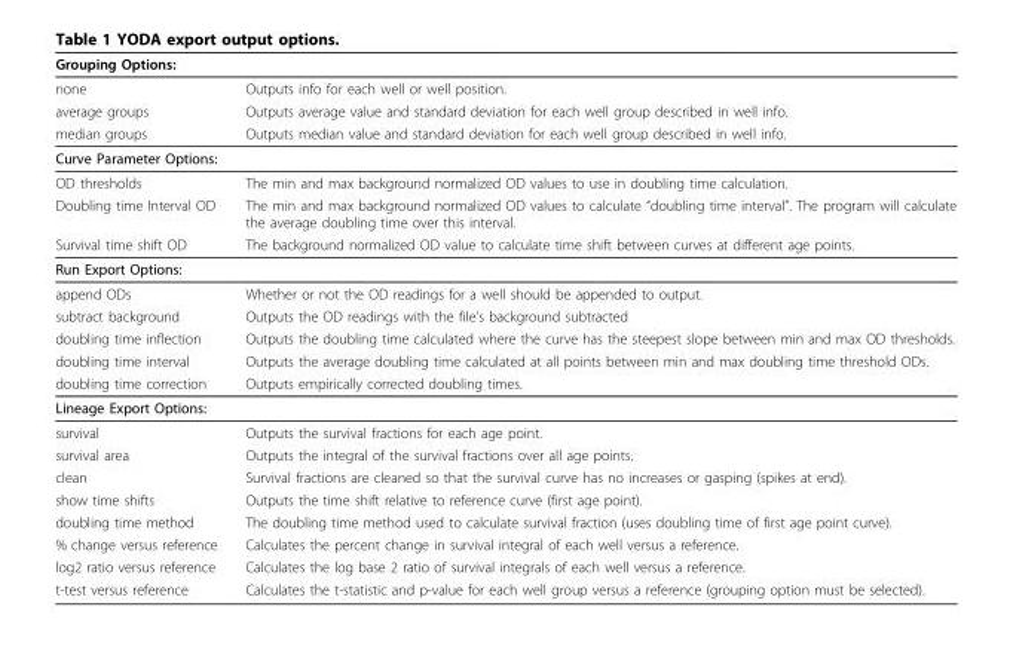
<table><thead><tr><td>Grouping Options:</td><td></td></tr></thead><tbody><tr><td>none</td><td>Outputs info for each well or well position.</td></tr><tr><td>average groups</td><td>Outputs average value and standard deviation for each well group described in well info.</td></tr><tr><td>median groups</td><td>Outputs median value and standard deviation for each well group described in well info.</td></tr><tr><td colspan="2">Curve Parameter Options:</td></tr><tr><td>OD thresholds</td><td>The min and max background normalized OD values to use in doubling time calculation.</td></tr><tr><td>Doubling time Interval OD</td><td>The min and max background normalized OD values to calculate “doubling time interval”. The program will calculate the average doubling time over this interval.</td></tr><tr><td>Survival time shift OD</td><td>The background normalized OD value to calculate time shift between curves at different age points.</td></tr><tr><td colspan="2">Run Export Options:</td></tr><tr><td>append ODs</td><td>Whether or not the OD readings for a well should be appended to output.</td></tr><tr><td>subtract background</td><td>Outputs the OD readings with the file’s background subtracted</td></tr><tr><td>doubling time inflection</td><td>Outputs the doubling time calculated where the curve has the steepest slope between min and max OD thresholds.</td></tr><tr><td>doubling time interval</td><td>Outputs the average doubling time calculated at all points between min and max doubling time threshold ODs.</td></tr><tr><td>doubling time correction</td><td>Outputs empirically corrected doubling times.</td></tr><tr><td colspan="2">Lineage Export Options:</td></tr><tr><td>survival</td><td>Outputs the survival fractions for each age point.</td></tr><tr><td>survival area</td><td>Outputs the integral of the survival fractions over all age points.</td></tr><tr><td>clean</td><td>Survival fractions are cleaned so that the survival curve has no increases or gasping (spikes at end).</td></tr><tr><td>show time shifts</td><td>Outputs the time shift relative to reference curve (first age point).</td></tr><tr><td>doubling time method</td><td>The doubling time method used to calculate survival fraction (uses doubling time of first age point curve).</td></tr><tr><td>% change versus reference</td><td>Calculates the percent change in survival integral of each well versus a reference.</td></tr><tr><td>log2 ratio versus reference</td><td>Calculates the log base 2 ratio of survival integrals of each well versus a reference.</td></tr><tr><td>t-test versus reference</td><td>Calculates the t-statistic and p-value for each well group versus a reference (grouping option must be selected).</td></tr></tbody></table>